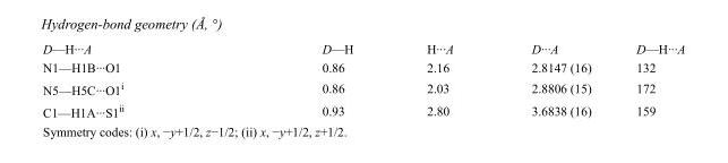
<table><tbody><tr><td>D—H···A</td><td>D—H</td><td>H···A</td><td>D···A</td><td>D—H···A</td></tr><tr><td>N1—H1B···O1</td><td>0.86</td><td>2.16</td><td>2.8147 (16)</td><td>132</td></tr><tr><td>N5—H5C···O1<sup>i</sup></td><td>0.86</td><td>2.03</td><td>2.8806 (15)</td><td>172</td></tr><tr><td>C1—H1A···S1<sup>ii</sup></td><td>0.93</td><td>2.80</td><td>3.6838 (16)</td><td>159</td></tr></tbody></table>